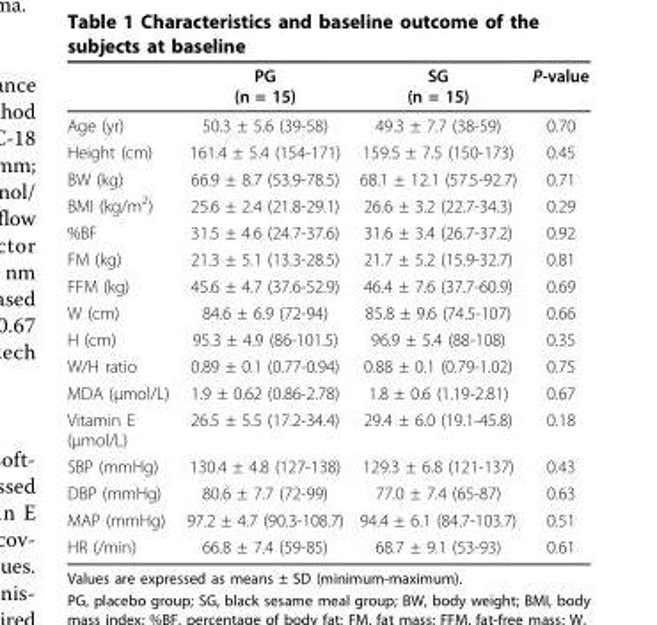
<table><thead><tr><td></td><td>PG (n = 15)</td><td>SG (n = 15)</td><td>P-value</td></tr></thead><tbody><tr><td>Age (yr)</td><td>50.3 ± 5.6 (39-58)</td><td>49.3 ± 7.7 (38-59)</td><td>0.70</td></tr><tr><td>Height (cm)</td><td>161.4 ± 5.4 (154-171)</td><td>159.5 ± 7.5 (150-173)</td><td>0.45</td></tr><tr><td>BW (kg)</td><td>66.9 ± 8.7 (53.9-78.5)</td><td>68.1 ± 12.1 (57.5-92.7)</td><td>0.71</td></tr><tr><td>BMI (kg/m<sup>2</sup>)</td><td>25.6 ± 2.4 (21.8-29.1)</td><td>26.6 ± 3.2 (22.7-34.3)</td><td>0.29</td></tr><tr><td>%BF</td><td>31.5 ± 4.6 (24.7-37.6)</td><td>31.6 ± 3.4 (26.7-37.2)</td><td>0.92</td></tr><tr><td>FM (kg)</td><td>21.3 ± 5.1 (13.3-28.5)</td><td>21.7 ± 5.2 (15.9-32.7)</td><td>0.81</td></tr><tr><td>FFM (kg)</td><td>45.6 ± 4.7 (37.6-52.9)</td><td>46.4 ± 7.6 (37.7-60.9)</td><td>0.69</td></tr><tr><td>W (cm)</td><td>84.6 ± 6.9 (72-94)</td><td>85.8 ± 9.6 (74.5-107)</td><td>0.66</td></tr><tr><td>H (cm)</td><td>95.3 ± 4.9 (86-101.5)</td><td>96.9 ± 5.4 (88-108)</td><td>0.35</td></tr><tr><td>W/H ratio</td><td>0.89 ± 0.1 (0.77-0.94)</td><td>0.88 ± 0.1 (0.79-1.02)</td><td>0.75</td></tr><tr><td>MDA (μmol/L)</td><td>1.9 ± 0.62 (0.86-2.78)</td><td>1.8 ± 0.6 (1.19-2.81)</td><td>0.67</td></tr><tr><td>Vitamin E (μmol/L)</td><td>26.5 ± 5.5 (17.2-34.4)</td><td>29.4 ± 6.0 (19.1-45.8)</td><td>0.18</td></tr><tr><td>SBP (mmHg)</td><td>130.4 ± 4.8 (127-138)</td><td>129.3 ± 6.8 (121-137)</td><td>0.43</td></tr><tr><td>DBP (mmHg)</td><td>80.6 ± 7.7 (72-99)</td><td>77.0 ± 7.4 (65-87)</td><td>0.63</td></tr><tr><td>MAP (mmHg)</td><td>97.2 ± 4.7 (90.3-108.7)</td><td>94.4 ± 6.1 (84.7-103.7)</td><td>0.51</td></tr><tr><td>HR (/min)</td><td>66.8 ± 7.4 (59-85)</td><td>68.7 ± 9.1 (53-93)</td><td>0.61</td></tr></tbody></table>